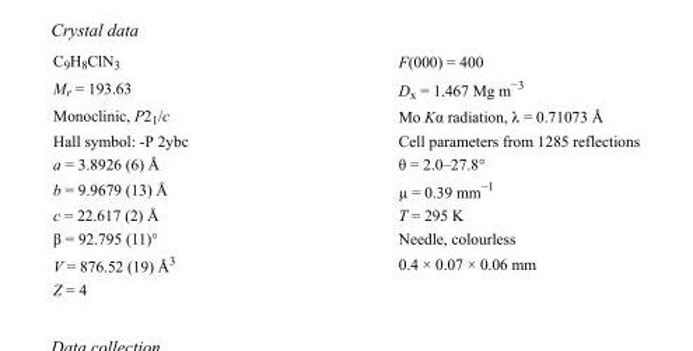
<table><tbody><tr><td>C<sub>9</sub>H<sub>8</sub>ClN<sub>3</sub></td><td>F(000) = 400</td></tr><tr><td>M<sub>r</sub> = 193.63</td><td>D<sub>x</sub> = 1.467 Mg m<sup>−3</sup></td></tr><tr><td>Monoclinic, P2<sub>1</sub>/c</td><td>Mo Kα radiation, λ = 0.71073 Å</td></tr><tr><td>Hall symbol: -P 2ybc</td><td>Cell parameters from 1285 reflections</td></tr><tr><td>a = 3.8926 (6) Å</td><td>θ = 2.0–27.8°</td></tr><tr><td>b = 9.9679 (13) Å</td><td>µ = 0.39 mm<sup>−1</sup></td></tr><tr><td>c = 22.617 (2) Å</td><td>T = 295 K</td></tr><tr><td>β = 92.795 (11)°</td><td>Needle, colourless</td></tr><tr><td>V = 876.52 (19) Å<sup>3</sup></td><td>0.4 × 0.07 × 0.06 mm</td></tr><tr><td>Z = 4</td><td></td></tr></tbody></table>